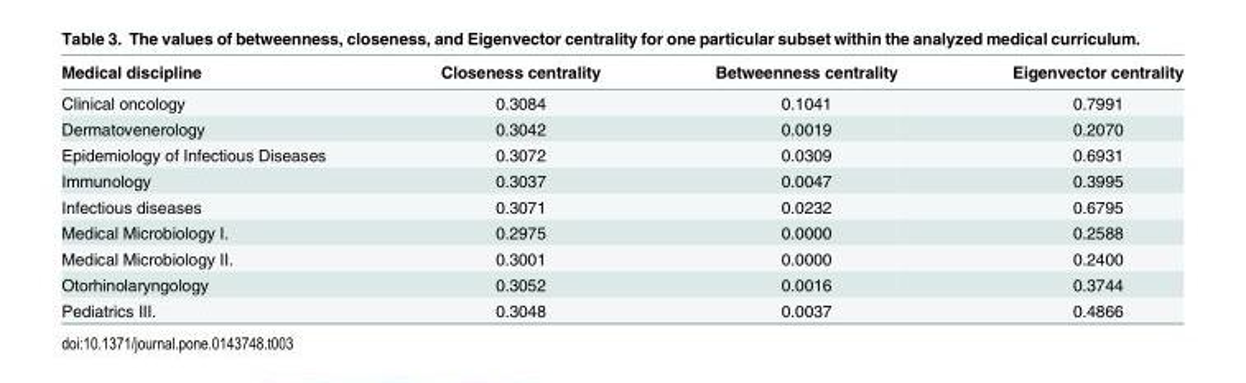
<table><thead><tr><td>Medical discipline</td><td>Closeness centrality</td><td>Betweenness centrality</td><td>Eigenvector centrality</td></tr></thead><tbody><tr><td>Clinical oncology</td><td>0.3084</td><td>0.1041</td><td>0.7991</td></tr><tr><td>Dermatovenerology</td><td>0.3042</td><td>0.0019</td><td>0.2070</td></tr><tr><td>Epidemiology of Infectious Diseases</td><td>0.3072</td><td>0.0309</td><td>0.6931</td></tr><tr><td>Immunology</td><td>0.3037</td><td>0.0047</td><td>0.3995</td></tr><tr><td>Infectious diseases</td><td>0.3071</td><td>0.0232</td><td>0.6795</td></tr><tr><td>Medical Microbiology I.</td><td>0.2975</td><td>0.0000</td><td>0.2588</td></tr><tr><td>Medical Microbiology II.</td><td>0.3001</td><td>0.0000</td><td>0.2400</td></tr><tr><td>Otorhinolaryngology</td><td>0.3052</td><td>0.0016</td><td>0.3744</td></tr><tr><td>Pediatrics III.</td><td>0.3048</td><td>0.0037</td><td>0.4866</td></tr></tbody></table>